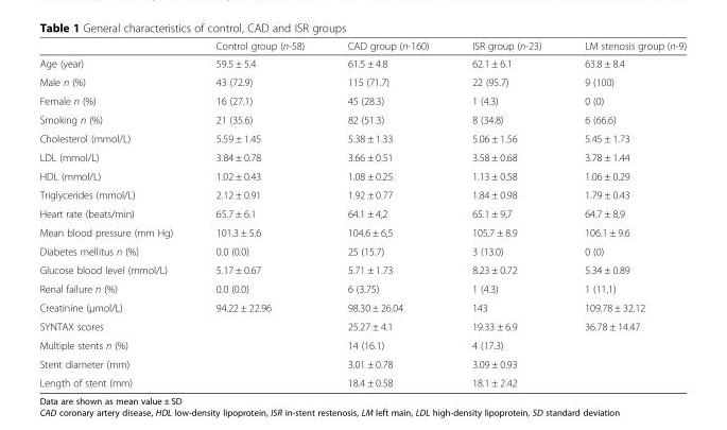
<table><thead><tr><td></td><td>Control group (n-58)</td><td>CAD group (n-160)</td><td>ISR group (n-23)</td><td>LM stenosis group (n-9)</td></tr></thead><tbody><tr><td>Age (year)</td><td>59.5 ± 5.4</td><td>61.5 ± 4.8</td><td>62.1 ± 6.1</td><td>63.8 ± 8.4</td></tr><tr><td>Male n (%)</td><td>43 (72.9)</td><td>115 (71.7)</td><td>22 (95.7)</td><td>9 (100)</td></tr><tr><td>Female n (%)</td><td>16 (27.1)</td><td>45 (28.3)</td><td>1 (4.3)</td><td>0 (0)</td></tr><tr><td>Smoking n (%)</td><td>21 (35.6)</td><td>82 (51.3)</td><td>8 (34.8)</td><td>6 (66.6)</td></tr><tr><td>Cholesterol (mmol/L)</td><td>5.59 ± 1.45</td><td>5.38 ± 1.33</td><td>5.06 ± 1.56</td><td>5.45 ± 1.73</td></tr><tr><td>LDL (mmol/L)</td><td>3.84 ± 0.78</td><td>3.66 ± 0.51</td><td>3.58 ± 0.68</td><td>3.78 ± 1.44</td></tr><tr><td>HDL (mmol/L)</td><td>1.02 ± 0.43</td><td>1.08 ± 0.25</td><td>1.13 ± 0.58</td><td>1.06 ± 0.29</td></tr><tr><td>Triglycerides (mmol/L)</td><td>2.12 ± 0.91</td><td>1.92 ± 0.77</td><td>1.84 ± 0.98</td><td>1.79 ± 0.43</td></tr><tr><td>Heart rate (beats/min)</td><td>65.7 ± 6.1</td><td>64.1 ± 4,2</td><td>65.1 ± 9,7</td><td>64.7 ± 8,9</td></tr><tr><td>Mean blood pressure (mm Hg)</td><td>101.3 ± 5.6</td><td>104.6 ± 6,5</td><td>105.7 ± 8.9</td><td>106.1 ± 9.6</td></tr><tr><td>Diabetes mellitus n (%)</td><td>0.0 (0.0)</td><td>25 (15.7)</td><td>3 (13.0)</td><td>0 (0)</td></tr><tr><td>Glucose blood level (mmol/L)</td><td>5.17 ± 0.67</td><td>5.71 ± 1.73</td><td>8.23 ± 0.72</td><td>5.34 ± 0.89</td></tr><tr><td>Renal failure n (%)</td><td>0.0 (0.0)</td><td>6 (3.75)</td><td>1 (4.3)</td><td>1 (11,1)</td></tr><tr><td>Creatinine (μmol/L)</td><td>94.22 ± 22.96</td><td>98.30 ± 26.04</td><td>143</td><td>109.78 ± 32.12</td></tr><tr><td>SYNTAX scores</td><td></td><td>25.27 ± 4.1</td><td>19.33 ± 6.9</td><td>36.78 ± 14.47</td></tr><tr><td>Multiple stents n (%)</td><td></td><td>14 (16.1)</td><td>4 (17.3)</td><td></td></tr><tr><td>Stent diameter (mm)</td><td></td><td>3.01 ± 0.78</td><td>3.09 ± 0.93</td><td></td></tr><tr><td>Length of stent (mm)</td><td></td><td>18.4 ± 0.58</td><td>18.1 ± 2.42</td><td></td></tr></tbody></table>